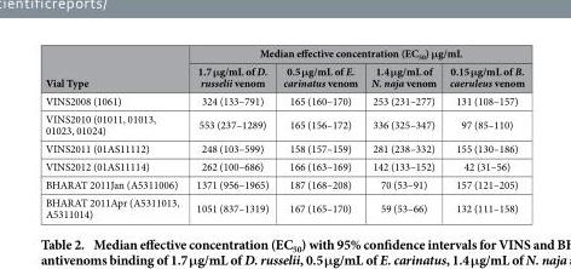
<table><thead><tr><td rowspan="2">Vial Type</td><td colspan="4">Median effective concentration (EC<sub>50</sub>) μg/mL</td></tr><tr><td>1.7 μg/mL of D. russelii venom</td><td>0.5 μg/mL of E. carinatus venom</td><td>1.4 μg/mL of N. naja venom</td><td>0.15 μg/mL of B. caeruleus venom</td></tr></thead><tbody><tr><td>VINS2008 (1061)</td><td>324 (133–791)</td><td>165 (160–170)</td><td>253 (231–277)</td><td>131 (108–157)</td></tr><tr><td>VINS2010 (01011, 01013, 01023, 01024)</td><td>553 (237–1289)</td><td>165 (156–172)</td><td>336 (325–347)</td><td>97 (85–110)</td></tr><tr><td>VINS2011 (01AS11112)</td><td>248 (103–599)</td><td>158 (157–159)</td><td>281 (238–332)</td><td>155 (130–186)</td></tr><tr><td>VINS2012 (01AS11114)</td><td>262 (100–686)</td><td>166 (163–169)</td><td>142 (133–152)</td><td>42 (31–56)</td></tr><tr><td>BHARAT 2011Jan (A5311006)</td><td>1371 (956–1965)</td><td>187 (168–208)</td><td>70 (53–91)</td><td>157 (121–205)</td></tr><tr><td>BHARAT 2011Apr (A5311013, A5311014)</td><td>1051 (837–1319)</td><td>167 (165–170)</td><td>59 (53–66)</td><td>132 (111–158)</td></tr></tbody></table>